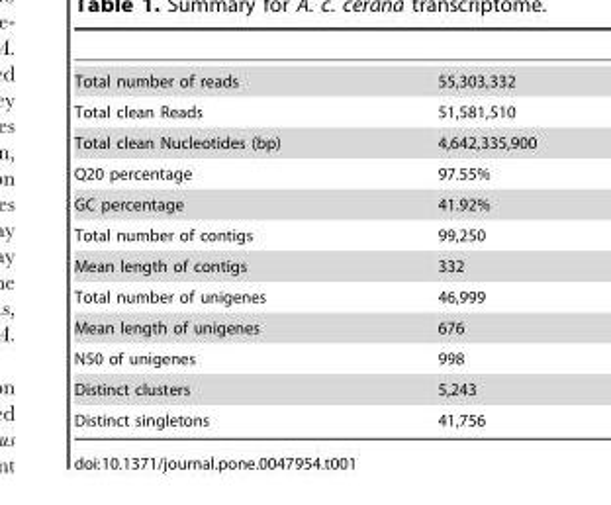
<table><tbody><tr><td>Total number of reads</td><td>55,303,332</td></tr><tr><td>Total clean Reads</td><td>51,581,510</td></tr><tr><td>Total clean Nucleotides (bp)</td><td>4,642,335,900</td></tr><tr><td>Q20 percentage</td><td>97.55%</td></tr><tr><td>GC percentage</td><td>41.92%</td></tr><tr><td>Total number of contigs</td><td>99,250</td></tr><tr><td>Mean length of contigs</td><td>332</td></tr><tr><td>Total number of unigenes</td><td>46,999</td></tr><tr><td>Mean length of unigenes</td><td>676</td></tr><tr><td>N50 of unigenes</td><td>998</td></tr><tr><td>Distinct clusters</td><td>5,243</td></tr><tr><td>Distinct singletons</td><td>41,756</td></tr></tbody></table>